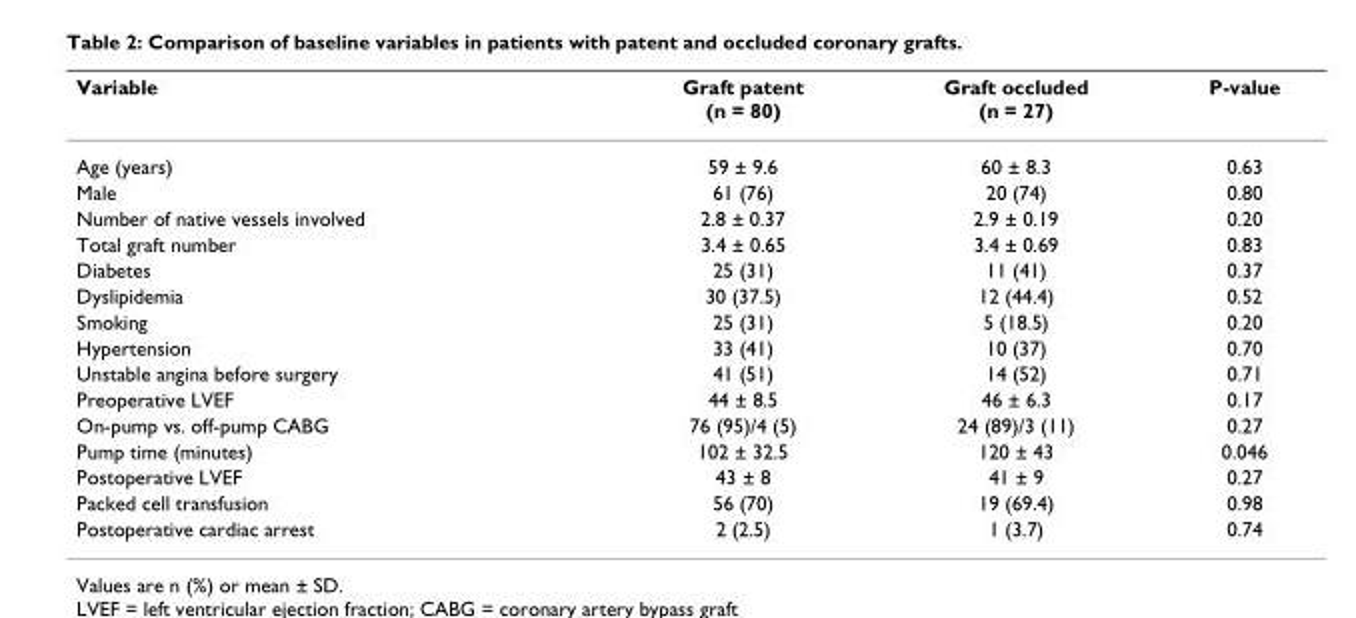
<table><thead><tr><td>Variable</td><td>Graft patent (n = 80)</td><td>Graft occluded (n = 27)</td><td>P-value</td></tr></thead><tbody><tr><td>Age (years)</td><td>59 ± 9.6</td><td>60 ± 8.3</td><td>0.63</td></tr><tr><td>Male</td><td>61 (76)</td><td>20 (74)</td><td>0.80</td></tr><tr><td>Number of native vessels involved</td><td>2.8 ± 0.37</td><td>2.9 ± 0.19</td><td>0.20</td></tr><tr><td>Total graft number</td><td>3.4 ± 0.65</td><td>3.4 ± 0.69</td><td>0.83</td></tr><tr><td>Diabetes</td><td>25 (31)</td><td>11 (41)</td><td>0.37</td></tr><tr><td>Dyslipidemia</td><td>30 (37.5)</td><td>12 (44.4)</td><td>0.52</td></tr><tr><td>Smoking</td><td>25 (31)</td><td>5 (18.5)</td><td>0.20</td></tr><tr><td>Hypertension</td><td>33 (41)</td><td>10 (37)</td><td>0.70</td></tr><tr><td>Unstable angina before surgery</td><td>41 (51)</td><td>14 (52)</td><td>0.71</td></tr><tr><td>Preoperative LVEF</td><td>44 ± 8.5</td><td>46 ± 6.3</td><td>0.17</td></tr><tr><td>On-pump vs. off-pump CABG</td><td>76 (95)/4 (5)</td><td>24 (89)/3 (11)</td><td>0.27</td></tr><tr><td>Pump time (minutes)</td><td>102 ± 32.5</td><td>120 ± 43</td><td>0.046</td></tr><tr><td>Postoperative LVEF</td><td>43 ± 8</td><td>41 ± 9</td><td>0.27</td></tr><tr><td>Packed cell transfusion</td><td>56 (70)</td><td>19 (69.4)</td><td>0.98</td></tr><tr><td>Postoperative cardiac arrest</td><td>2 (2.5)</td><td>1 (3.7)</td><td>0.74</td></tr></tbody></table>